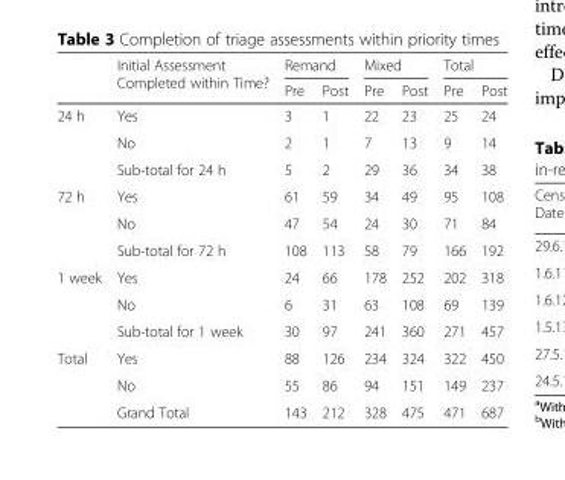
<table><thead><tr><td rowspan="2"></td><td rowspan="2">Initial Assessment Completed within Time?</td><td colspan="2">Remand</td><td colspan="2">Mixed</td><td colspan="2">Total</td></tr><tr><td>Pre</td><td>Post</td><td>Pre</td><td>Post</td><td>Pre</td><td>Post</td></tr></thead><tbody><tr><td rowspan="3">24 h</td><td>Yes</td><td>3</td><td>1</td><td>22</td><td>23</td><td>25</td><td>24</td></tr><tr><td>No</td><td>2</td><td>1</td><td>7</td><td>13</td><td>9</td><td>14</td></tr><tr><td>Sub-total for 24 h</td><td>5</td><td>2</td><td>29</td><td>36</td><td>34</td><td>38</td></tr><tr><td rowspan="3">72 h</td><td>Yes</td><td>61</td><td>59</td><td>34</td><td>49</td><td>95</td><td>108</td></tr><tr><td>No</td><td>47</td><td>54</td><td>24</td><td>30</td><td>71</td><td>84</td></tr><tr><td>Sub-total for 72 h</td><td>108</td><td>113</td><td>58</td><td>79</td><td>166</td><td>192</td></tr><tr><td rowspan="3">1 week</td><td>Yes</td><td>24</td><td>66</td><td>178</td><td>252</td><td>202</td><td>318</td></tr><tr><td>No</td><td>6</td><td>31</td><td>63</td><td>108</td><td>69</td><td>139</td></tr><tr><td>Sub-total for 1 week</td><td>30</td><td>97</td><td>241</td><td>360</td><td>271</td><td>457</td></tr><tr><td rowspan="3">Total</td><td>Yes</td><td>88</td><td>126</td><td>234</td><td>324</td><td>322</td><td>450</td></tr><tr><td>No</td><td>55</td><td>86</td><td>94</td><td>151</td><td>149</td><td>237</td></tr><tr><td>Grand Total</td><td>143</td><td>212</td><td>328</td><td>475</td><td>471</td><td>687</td></tr></tbody></table>